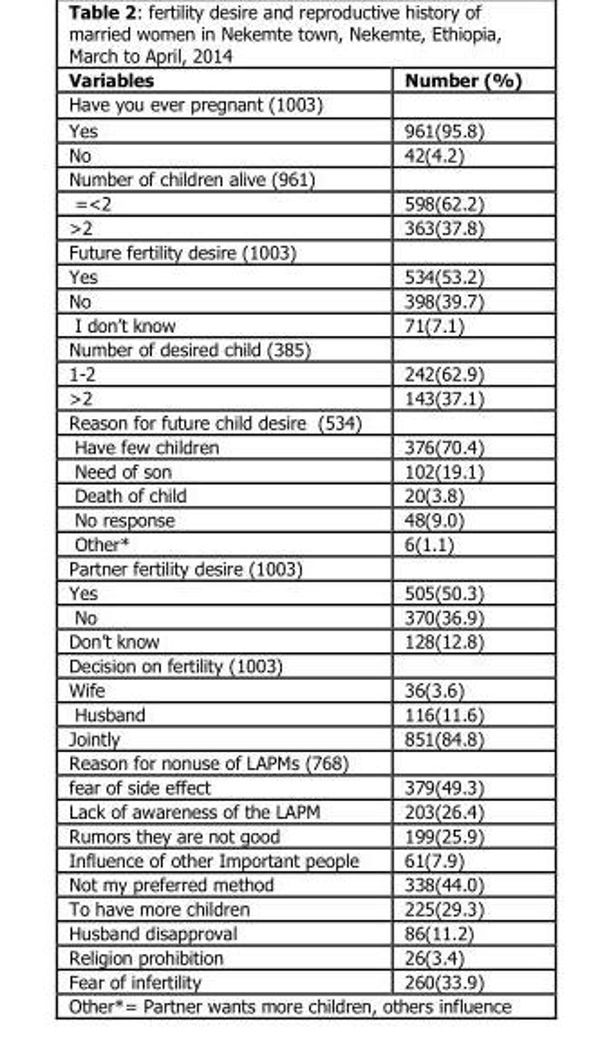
<table><thead><tr><td>Variables</td><td>Number (%)</td></tr></thead><tbody><tr><td colspan="2">Have you ever pregnant (1003)</td></tr><tr><td>Yes</td><td>961(95.8)</td></tr><tr><td>No</td><td>42(4.2)</td></tr><tr><td colspan="2">Number of children alive (961)</td></tr><tr><td>=&lt;2</td><td>598(62.2)</td></tr><tr><td>&gt;2</td><td>363(37.8)</td></tr><tr><td colspan="2">Future fertility desire (1003)</td></tr><tr><td>Yes</td><td>534(53.2)</td></tr><tr><td>No</td><td>398(39.7)</td></tr><tr><td>I don’t know</td><td>71(7.1)</td></tr><tr><td colspan="2">Number of desired child (385)</td></tr><tr><td>1-2</td><td>242(62.9)</td></tr><tr><td>&gt;2</td><td>143(37.1)</td></tr><tr><td colspan="2">Reason for future child desire (534)</td></tr><tr><td>Have few children</td><td>376(70.4)</td></tr><tr><td>Need of son</td><td>102(19.1)</td></tr><tr><td>Death of child</td><td>20(3.8)</td></tr><tr><td>No response</td><td>48(9.0)</td></tr><tr><td>Other*</td><td>6(1.1)</td></tr><tr><td colspan="2">Partner fertility desire (1003)</td></tr><tr><td>Yes</td><td>505(50.3)</td></tr><tr><td>No</td><td>370(36.9)</td></tr><tr><td>Don’t know</td><td>128(12.8)</td></tr><tr><td colspan="2">Decision on fertility (1003)</td></tr><tr><td>Wife</td><td>36(3.6)</td></tr><tr><td>Husband</td><td>116(11.6)</td></tr><tr><td>Jointly</td><td>851(84.8)</td></tr><tr><td colspan="2">Reason for nonuse of LAPMs (768)</td></tr><tr><td>fear of side effect</td><td>379(49.3)</td></tr><tr><td>Lack of awareness of the LAPM</td><td>203(26.4)</td></tr><tr><td>Rumors they are not good</td><td>199(25.9)</td></tr><tr><td>Influence of other Important people</td><td>61(7.9)</td></tr><tr><td>Not my preferred method</td><td>338(44.0)</td></tr><tr><td>To have more children</td><td>225(29.3)</td></tr><tr><td>Husband disapproval</td><td>86(11.2)</td></tr><tr><td>Religion prohibition</td><td>26(3.4)</td></tr><tr><td>Fear of infertility</td><td>260(33.9)</td></tr></tbody></table>